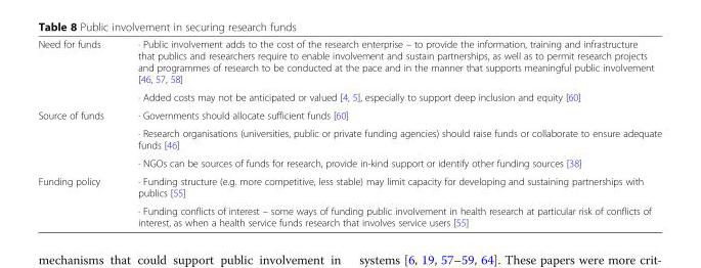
<table><tbody><tr><td rowspan="2">Need for funds</td><td>∙ Public involvement adds to the cost of the research enterprise – to provide the information, training and infrastructure that publics and researchers require to enable involvement and sustain partnerships, as well as to permit research projects and programmes of research to be conducted at the pace and in the manner that supports meaningful public involvement [46, 57, 58]</td></tr><tr><td>∙ Added costs may not be anticipated or valued [4, 5], especially to support deep inclusion and equity [60]</td></tr><tr><td rowspan="3">Source of funds</td><td>∙ Governments should allocate sufficient funds [60]</td></tr><tr><td>∙ Research organisations (universities, public or private funding agencies) should raise funds or collaborate to ensure adequate funds [46]</td></tr><tr><td>∙ NGOs can be sources of funds for research, provide in-kind support or identify other funding sources [38]</td></tr><tr><td rowspan="2">Funding policy</td><td>∙ Funding structure (e.g. more competitive, less stable) may limit capacity for developing and sustaining partnerships with publics [55]</td></tr><tr><td>∙ Funding conflicts of interest – some ways of funding public involvement in health research at particular risk of conflicts of interest, as when a health service funds research that involves service users [55]</td></tr></tbody></table>